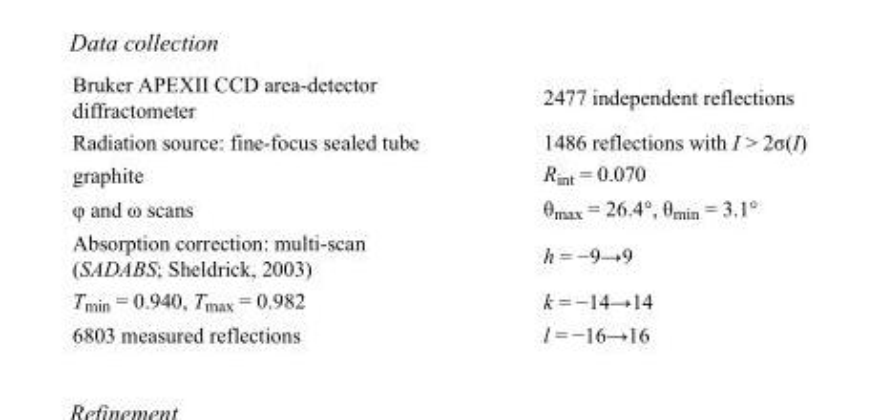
<table><tbody><tr><td>Bruker APEXII CCD area-detector diffractometer</td><td>2477 independent reflections</td></tr><tr><td>Radiation source: fine-focus sealed tube</td><td>1486 reflections with I &gt; 2σ(I)</td></tr><tr><td>graphite</td><td>R<sub>int</sub> = 0.070</td></tr><tr><td>φ and ω scans</td><td>θ<sub>max</sub> = 26.4°, θ<sub>min</sub> = 3.1°</td></tr><tr><td>Absorption correction: multi-scan (SADABS; Sheldrick, 2003)</td><td>h = −9→9</td></tr><tr><td>T<sub>min</sub> = 0.940, T<sub>max</sub> = 0.982</td><td>k = −14→14</td></tr><tr><td>6803 measured reflections</td><td>l = −16→16</td></tr></tbody></table>